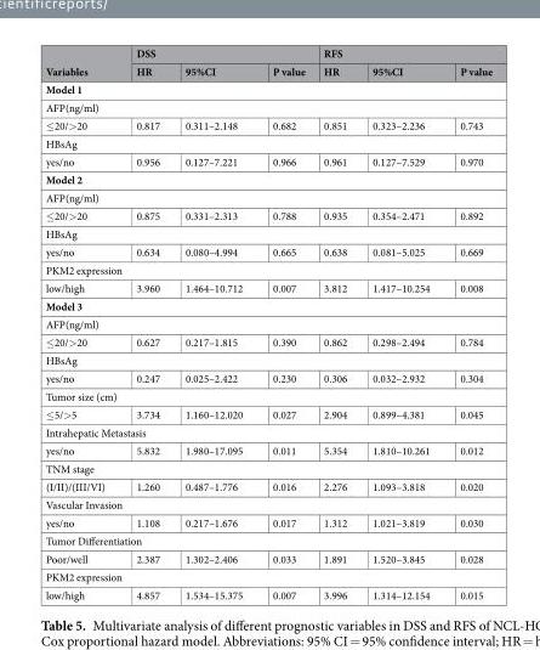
<table><thead><tr><td rowspan="2">Variables</td><td colspan="3">DSS</td><td colspan="3">RFS</td></tr><tr><td>HR</td><td>95%CI</td><td>P value</td><td>HR</td><td>95%CI</td><td>P value</td></tr></thead><tbody><tr><td colspan="7">Model 1</td></tr><tr><td colspan="7">AFP(ng/ml)</td></tr><tr><td>≤20/&gt;20</td><td>0.817</td><td>0.311–2.148</td><td>0.682</td><td>0.851</td><td>0.323–2.236</td><td>0.743</td></tr><tr><td colspan="7">HBsAg</td></tr><tr><td>yes/no</td><td>0.956</td><td>0.127–7.221</td><td>0.966</td><td>0.961</td><td>0.127–7.529</td><td>0.970</td></tr><tr><td colspan="7">Model 2</td></tr><tr><td colspan="7">AFP(ng/ml)</td></tr><tr><td>≤20/&gt;20</td><td>0.875</td><td>0.331–2.313</td><td>0.788</td><td>0.935</td><td>0.354–2.471</td><td>0.892</td></tr><tr><td colspan="7">HBsAg</td></tr><tr><td>yes/no</td><td>0.634</td><td>0.080–4.994</td><td>0.665</td><td>0.638</td><td>0.081–5.025</td><td>0.669</td></tr><tr><td colspan="7">PKM2 expression</td></tr><tr><td>low/high</td><td>3.960</td><td>1.464–10.712</td><td>0.007</td><td>3.812</td><td>1.417–10.254</td><td>0.008</td></tr><tr><td colspan="7">Model 3</td></tr><tr><td colspan="7">AFP(ng/ml)</td></tr><tr><td>≤20/&gt;20</td><td>0.627</td><td>0.217–1.815</td><td>0.390</td><td>0.862</td><td>0.298–2.494</td><td>0.784</td></tr><tr><td colspan="7">HBsAg</td></tr><tr><td>yes/no</td><td>0.247</td><td>0.025–2.422</td><td>0.230</td><td>0.306</td><td>0.032–2.932</td><td>0.304</td></tr><tr><td colspan="7">Tumor size (cm)</td></tr><tr><td>≤5/&gt;5</td><td>3.734</td><td>1.160–12.020</td><td>0.027</td><td>2.904</td><td>0.899–4.381</td><td>0.045</td></tr><tr><td colspan="7">Intrahepatic Metastasis</td></tr><tr><td>yes/no</td><td>5.832</td><td>1.980–17.095</td><td>0.011</td><td>5.354</td><td>1.810–10.261</td><td>0.012</td></tr><tr><td colspan="7">TNM stage</td></tr><tr><td>(I/II)/(III/VI)</td><td>1.260</td><td>0.487–1.776</td><td>0.016</td><td>2.276</td><td>1.093–3.818</td><td>0.020</td></tr><tr><td colspan="7">Vascular Invasion</td></tr><tr><td>yes/no</td><td>1.108</td><td>0.217–1.676</td><td>0.017</td><td>1.312</td><td>1.021–3.819</td><td>0.030</td></tr><tr><td colspan="7">Tumor Differentiation</td></tr><tr><td>Poor/well</td><td>2.387</td><td>1.302–2.406</td><td>0.033</td><td>1.891</td><td>1.520–3.845</td><td>0.028</td></tr><tr><td colspan="7">PKM2 expression</td></tr><tr><td>low/high</td><td>4.857</td><td>1.534–15.375</td><td>0.007</td><td>3.996</td><td>1.314–12.154</td><td>0.015</td></tr></tbody></table>